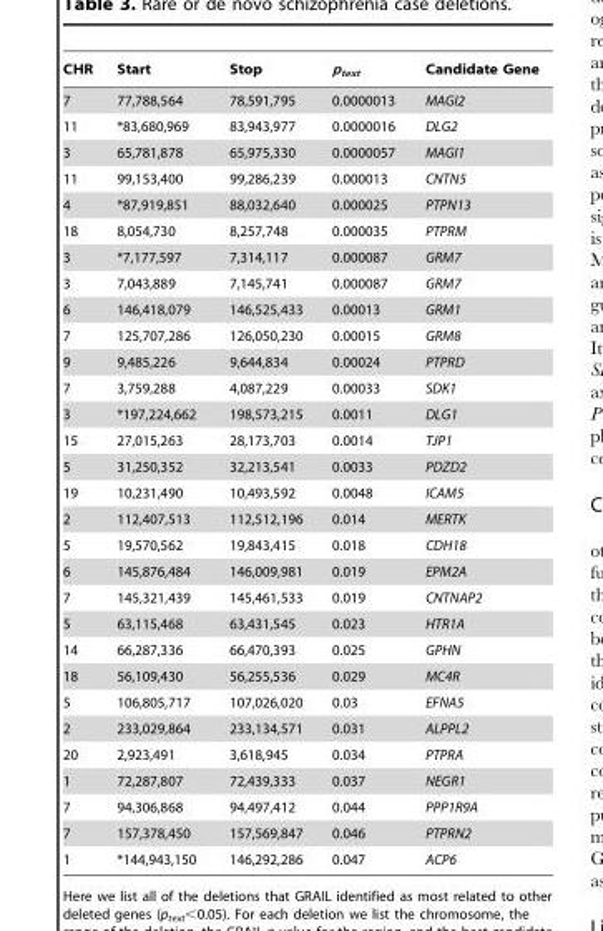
<table><thead><tr><td>CHR</td><td>Start</td><td>Stop</td><td>p<sub>text</sub></td><td>Candidate Gene</td></tr></thead><tbody><tr><td>7</td><td>77,788,564</td><td>78,591,795</td><td>0.0000013</td><td>MAGI2</td></tr><tr><td>11</td><td>*83,680,969</td><td>83,943,977</td><td>0.0000016</td><td>DLG2</td></tr><tr><td>3</td><td>65,781,878</td><td>65,975,330</td><td>0.0000057</td><td>MAGI1</td></tr><tr><td>11</td><td>99,153,400</td><td>99,286,239</td><td>0.000013</td><td>CNTN5</td></tr><tr><td>4</td><td>*87,919,851</td><td>88,032,640</td><td>0.000025</td><td>PTPN13</td></tr><tr><td>18</td><td>8,054,730</td><td>8,257,748</td><td>0.000035</td><td>PTPRM</td></tr><tr><td>3</td><td>*7,177,597</td><td>7,314,117</td><td>0.000087</td><td>GRM7</td></tr><tr><td>3</td><td>7,043,889</td><td>7,145,741</td><td>0.000087</td><td>GRM7</td></tr><tr><td>6</td><td>146,418,079</td><td>146,525,433</td><td>0.00013</td><td>GRM1</td></tr><tr><td>7</td><td>125,707,286</td><td>126,050,230</td><td>0.00015</td><td>GRM8</td></tr><tr><td>9</td><td>9,485,226</td><td>9,644,834</td><td>0.00024</td><td>PTPRD</td></tr><tr><td>7</td><td>3,759,288</td><td>4,087,229</td><td>0.00033</td><td>SDK1</td></tr><tr><td>3</td><td>*197,224,662</td><td>198,573,215</td><td>0.0011</td><td>DLG1</td></tr><tr><td>15</td><td>27,015,263</td><td>28,173,703</td><td>0.0014</td><td>TJP1</td></tr><tr><td>5</td><td>31,250,352</td><td>32,213,541</td><td>0.0033</td><td>PDZD2</td></tr><tr><td>19</td><td>10,231,490</td><td>10,493,592</td><td>0.0048</td><td>ICAM5</td></tr><tr><td>2</td><td>112,407,513</td><td>112,512,196</td><td>0.014</td><td>MERTK</td></tr><tr><td>5</td><td>19,570,562</td><td>19,843,415</td><td>0.018</td><td>CDH18</td></tr><tr><td>6</td><td>145,876,484</td><td>146,009,981</td><td>0.019</td><td>EPM2A</td></tr><tr><td>7</td><td>145,321,439</td><td>145,461,533</td><td>0.019</td><td>CNTNAP2</td></tr><tr><td>5</td><td>63,115,468</td><td>63,431,545</td><td>0.023</td><td>HTR1A</td></tr><tr><td>14</td><td>66,287,336</td><td>66,470,393</td><td>0.025</td><td>GPHN</td></tr><tr><td>18</td><td>56,109,430</td><td>56,255,536</td><td>0.029</td><td>MC4R</td></tr><tr><td>5</td><td>106,805,717</td><td>107,026,020</td><td>0.03</td><td>EFNA5</td></tr><tr><td>2</td><td>233,029,864</td><td>233,134,571</td><td>0.031</td><td>ALPPL2</td></tr><tr><td>20</td><td>2,923,491</td><td>3,618,945</td><td>0.034</td><td>PTPRA</td></tr><tr><td>1</td><td>72,287,807</td><td>72,439,333</td><td>0.037</td><td>NEGR1</td></tr><tr><td>7</td><td>94,306,868</td><td>94,497,412</td><td>0.044</td><td>PPP1R9A</td></tr><tr><td>7</td><td>157,378,450</td><td>157,569,847</td><td>0.046</td><td>PTPRN2</td></tr><tr><td>1</td><td>*144,943,150</td><td>146,292,286</td><td>0.047</td><td>ACP6</td></tr></tbody></table>